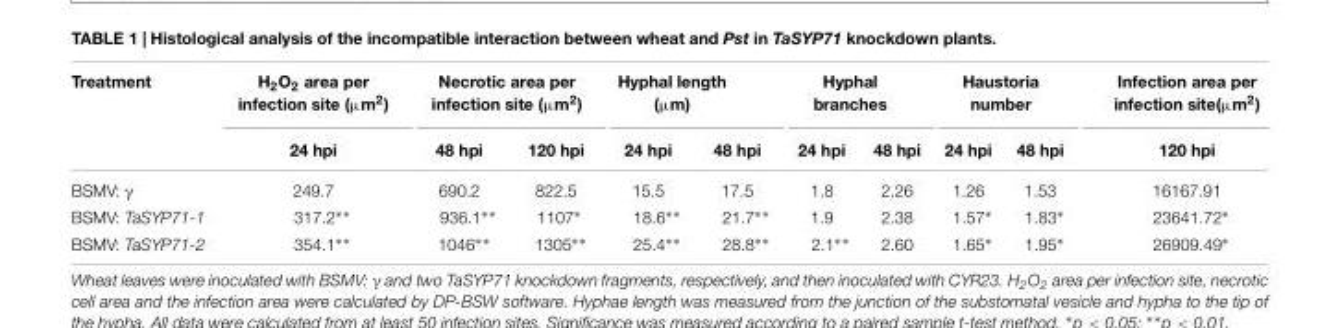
<table><thead><tr><td rowspan="2">Treatment</td><td rowspan="2">H<sub>2</sub>O<sub>2</sub> area per infection site (µm<sup>2</sup>) 24 hpi</td><td colspan="2">Necrotic area per infection site (µm<sup>2</sup>)</td><td colspan="2">Hyphal length (µm)</td><td colspan="2">Hyphal branches</td><td colspan="2">Haustoria number</td><td rowspan="2">Infection area per infection site(µm<sup>2</sup>) 120 hpi</td></tr><tr><td>48 hpi</td><td>120 hpi</td><td>24 hpi</td><td>48 hpi</td><td>24 hpi</td><td>48 hpi</td><td>24 hpi</td><td>48 hpi</td></tr></thead><tbody><tr><td>BSMV: γ</td><td>249.7</td><td>690.2</td><td>822.5</td><td>15.5</td><td>17.5</td><td>1.8</td><td>2.26</td><td>1.26</td><td>1.53</td><td>16167.91</td></tr><tr><td>BSMV: TaSYP71-1</td><td>317.2∗∗</td><td>936.1∗∗</td><td>1107∗</td><td>18.6∗∗</td><td>21.7∗∗</td><td>1.9</td><td>2.38</td><td>1.57∗</td><td>1.83∗</td><td>23641.72∗</td></tr><tr><td>BSMV: TaSYP71-2</td><td>354.1∗∗</td><td>1046∗∗</td><td>1305∗∗</td><td>25.4∗∗</td><td>28.8∗∗</td><td>2.1∗∗</td><td>2.60</td><td>1.65∗</td><td>1.95∗</td><td>26909.49∗</td></tr></tbody></table>